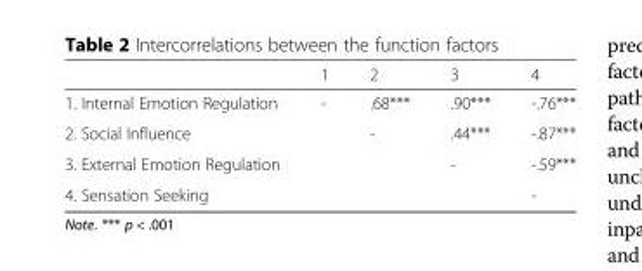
<table><thead><tr><td></td><td>1</td><td>2</td><td>3</td><td>4</td></tr></thead><tbody><tr><td>1. Internal Emotion Regulation</td><td>-</td><td>.68***</td><td>.90***</td><td>-.76***</td></tr><tr><td>2. Social Influence</td><td></td><td>-</td><td>.44***</td><td>-.87***</td></tr><tr><td>3. External Emotion Regulation</td><td></td><td></td><td>-</td><td>-.59***</td></tr><tr><td>4. Sensation Seeking</td><td></td><td></td><td></td><td>-</td></tr></tbody></table>